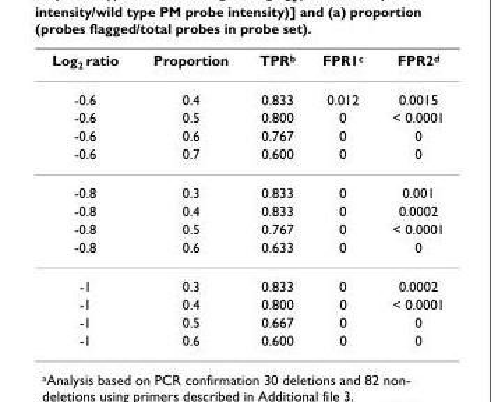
<table><thead><tr><td>Log<sub>2</sub> ratio</td><td>Proportion</td><td>TPR<sup>b</sup></td><td>FPR1<sup>c</sup></td><td>FPR2<sup>d</sup></td></tr></thead><tbody><tr><td>-0.6</td><td>0.4</td><td>0.833</td><td>0.012</td><td>0.0015</td></tr><tr><td>-0.6</td><td>0.5</td><td>0.800</td><td>0</td><td>&lt; 0.0001</td></tr><tr><td>-0.6</td><td>0.6</td><td>0.767</td><td>0</td><td>0</td></tr><tr><td>-0.6</td><td>0.7</td><td>0.600</td><td>0</td><td>0</td></tr><tr><td>-0.8</td><td>0.3</td><td>0.833</td><td>0</td><td>0.001</td></tr><tr><td>-0.8</td><td>0.4</td><td>0.833</td><td>0</td><td>0.0002</td></tr><tr><td>-0.8</td><td>0.5</td><td>0.767</td><td>0</td><td>&lt; 0.0001</td></tr><tr><td>-0.8</td><td>0.6</td><td>0.633</td><td>0</td><td>0</td></tr><tr><td>-1</td><td>0.3</td><td>0.833</td><td>0</td><td>0.0002</td></tr><tr><td>-1</td><td>0.4</td><td>0.800</td><td>0</td><td>&lt; 0.0001</td></tr><tr><td>-1</td><td>0.5</td><td>0.667</td><td>0</td><td>0</td></tr><tr><td>-1</td><td>0.6</td><td>0.600</td><td>0</td><td>0</td></tr></tbody></table>